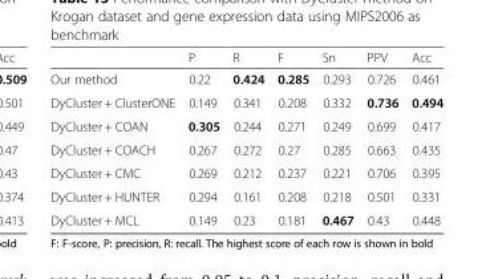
<table><thead><tr><td></td><td>P</td><td>R</td><td>F</td><td>Sn</td><td>PPV</td><td>Acc</td></tr></thead><tbody><tr><td>Our method</td><td>0.22</td><td>0.424</td><td>0.285</td><td>0.293</td><td>0.726</td><td>0.461</td></tr><tr><td>DyCluster + ClusterONE</td><td>0.149</td><td>0.341</td><td>0.208</td><td>0.332</td><td>0.736</td><td>0.494</td></tr><tr><td>DyCluster + COAN</td><td>0.305</td><td>0.244</td><td>0.271</td><td>0.249</td><td>0.699</td><td>0.417</td></tr><tr><td>DyCluster + COACH</td><td>0.267</td><td>0.272</td><td>0.27</td><td>0.285</td><td>0.663</td><td>0.435</td></tr><tr><td>DyCluster + CMC</td><td>0.269</td><td>0.212</td><td>0.237</td><td>0.221</td><td>0.706</td><td>0.395</td></tr><tr><td>DyCluster + HUNTER</td><td>0.294</td><td>0.161</td><td>0.208</td><td>0.218</td><td>0.501</td><td>0.331</td></tr><tr><td>DyCluster + MCL</td><td>0.149</td><td>0.23</td><td>0.181</td><td>0.467</td><td>0.43</td><td>0.448</td></tr></tbody></table>